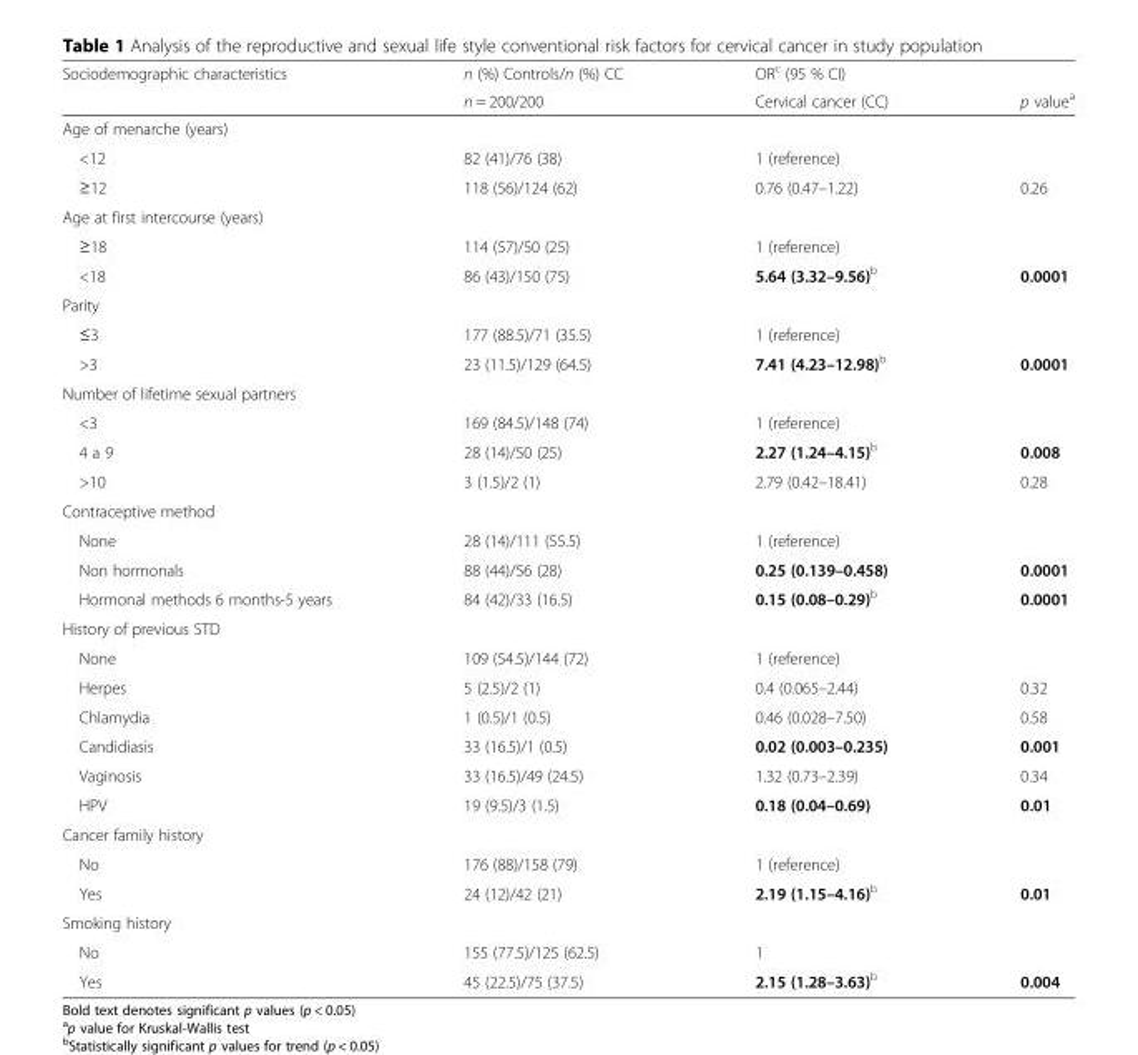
<table><thead><tr><td rowspan="2">Sociodemographic characteristics</td><td rowspan="2">n (%) Controls/n (%) CC n = 200/200</td><td rowspan="2">OR<sup>c</sup> (95 % CI) Cervical cancer (CC)</td><td rowspan="2">p value<sup>a</sup></td></tr><tr></tr></thead><tbody><tr><td colspan="4">Age of menarche (years)</td></tr><tr><td>&lt;12</td><td>82 (41)/76 (38)</td><td>1 (reference)</td><td></td></tr><tr><td>≥12</td><td>118 (56)/124 (62)</td><td>0.76 (0.47–1.22)</td><td>0.26</td></tr><tr><td colspan="4">Age at first intercourse (years)</td></tr><tr><td>≥18</td><td>114 (57)/50 (25)</td><td>1 (reference)</td><td></td></tr><tr><td>&lt;18</td><td>86 (43)/150 (75)</td><td>5.64 (3.32–9.56)<sup>b</sup></td><td>0.0001</td></tr><tr><td colspan="4">Parity</td></tr><tr><td>≤3</td><td>177 (88.5)/71 (35.5)</td><td>1 (reference)</td><td></td></tr><tr><td>&gt;3</td><td>23 (11.5)/129 (64.5)</td><td>7.41 (4.23–12.98)<sup>b</sup></td><td>0.0001</td></tr><tr><td colspan="4">Number of lifetime sexual partners</td></tr><tr><td>&lt;3</td><td>169 (84.5)/148 (74)</td><td>1 (reference)</td><td></td></tr><tr><td>4 a 9</td><td>28 (14)/50 (25)</td><td>2.27 (1.24–4.15)<sup>b</sup></td><td>0.008</td></tr><tr><td>&gt;10</td><td>3 (1.5)/2 (1)</td><td>2.79 (0.42–18.41)</td><td>0.28</td></tr><tr><td colspan="4">Contraceptive method</td></tr><tr><td>None</td><td>28 (14)/111 (55.5)</td><td>1 (reference)</td><td></td></tr><tr><td>Non hormonals</td><td>88 (44)/56 (28)</td><td>0.25 (0.139–0.458)</td><td>0.0001</td></tr><tr><td>Hormonal methods 6 months-5 years</td><td>84 (42)/33 (16.5)</td><td>0.15 (0.08–0.29)<sup>b</sup></td><td>0.0001</td></tr><tr><td colspan="4">History of previous STD</td></tr><tr><td>None</td><td>109 (54.5)/144 (72)</td><td>1 (reference)</td><td></td></tr><tr><td>Herpes</td><td>5 (2.5)/2 (1)</td><td>0.4 (0.065–2.44)</td><td>0.32</td></tr><tr><td>Chlamydia</td><td>1 (0.5)/1 (0.5)</td><td>0.46 (0.028–7.50)</td><td>0.58</td></tr><tr><td>Candidiasis</td><td>33 (16.5)/1 (0.5)</td><td>0.02 (0.003–0.235)</td><td>0.001</td></tr><tr><td>Vaginosis</td><td>33 (16.5)/49 (24.5)</td><td>1.32 (0.73–2.39)</td><td>0.34</td></tr><tr><td>HPV</td><td>19 (9.5)/3 (1.5)</td><td>0.18 (0.04–0.69)</td><td>0.01</td></tr><tr><td colspan="4">Cancer family history</td></tr><tr><td>No</td><td>176 (88)/158 (79)</td><td>1 (reference)</td><td></td></tr><tr><td>Yes</td><td>24 (12)/42 (21)</td><td>2.19 (1.15–4.16)<sup>b</sup></td><td>0.01</td></tr><tr><td colspan="4">Smoking history</td></tr><tr><td>No</td><td>155 (77.5)/125 (62.5)</td><td>1</td><td></td></tr><tr><td>Yes</td><td>45 (22.5)/75 (37.5)</td><td>2.15 (1.28–3.63)<sup>b</sup></td><td>0.004</td></tr></tbody></table>